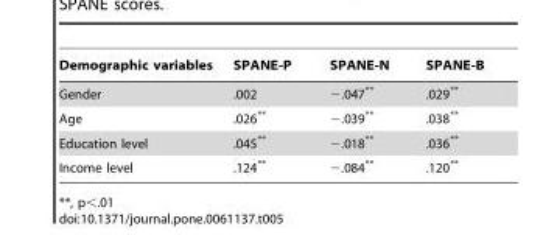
<table><thead><tr><td>Demographic variables</td><td>SPANE-P</td><td>SPANE-N</td><td>SPANE-B</td></tr></thead><tbody><tr><td>Gender</td><td>.002</td><td>−.047**</td><td>.029**</td></tr><tr><td>Age</td><td>.026**</td><td>−.039**</td><td>.038**</td></tr><tr><td>Education level</td><td>.045**</td><td>−.018**</td><td>.036**</td></tr><tr><td>Income level</td><td>.124**</td><td>−.084**</td><td>.120**</td></tr></tbody></table>